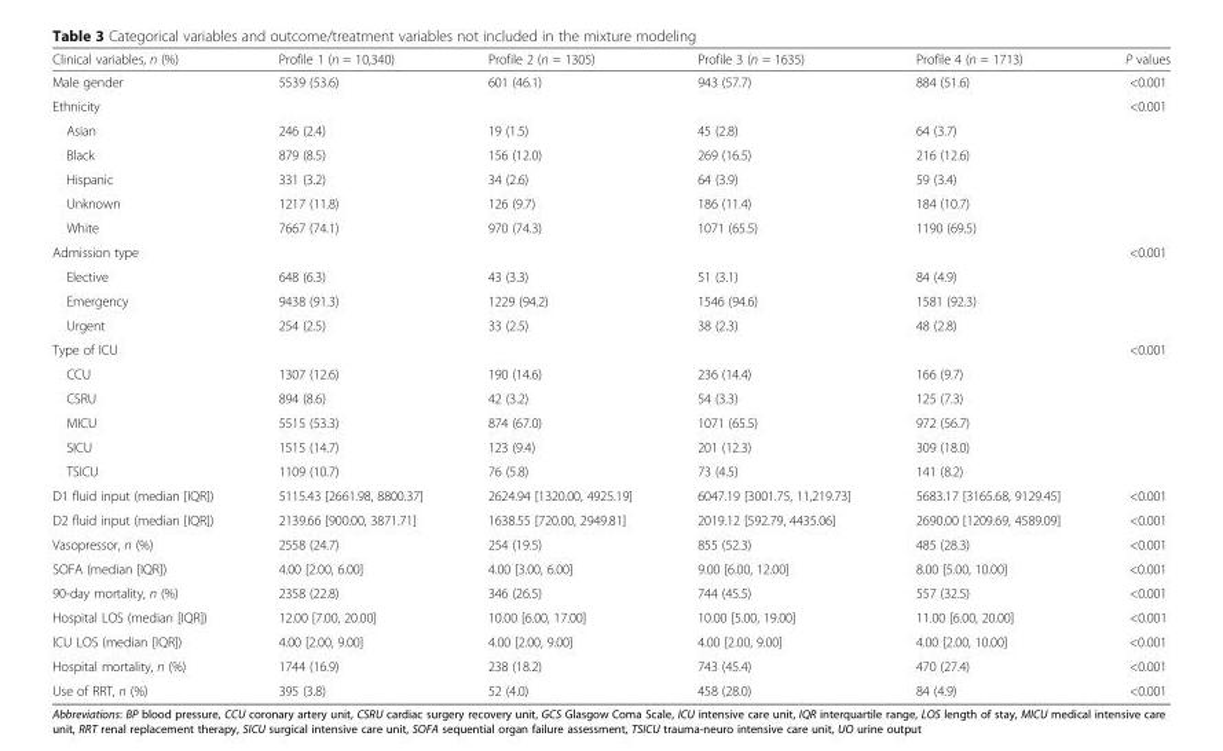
<table><thead><tr><td>Clinical variables, n (%)</td><td>Profile 1 (n = 10,340)</td><td>Profile 2 (n = 1305)</td><td>Profile 3 (n = 1635)</td><td>Profile 4 (n = 1713)</td><td>P values</td></tr></thead><tbody><tr><td>Male gender</td><td>5539 (53.6)</td><td>601 (46.1)</td><td>943 (57.7)</td><td>884 (51.6)</td><td>&lt;0.001</td></tr><tr><td>Ethnicity</td><td></td><td></td><td></td><td></td><td>&lt;0.001</td></tr><tr><td>Asian</td><td>246 (2.4)</td><td>19 (1.5)</td><td>45 (2.8)</td><td>64 (3.7)</td><td></td></tr><tr><td>Black</td><td>879 (8.5)</td><td>156 (12.0)</td><td>269 (16.5)</td><td>216 (12.6)</td><td></td></tr><tr><td>Hispanic</td><td>331 (3.2)</td><td>34 (2.6)</td><td>64 (3.9)</td><td>59 (3.4)</td><td></td></tr><tr><td>Unknown</td><td>1217 (11.8)</td><td>126 (9.7)</td><td>186 (11.4)</td><td>184 (10.7)</td><td></td></tr><tr><td>White</td><td>7667 (74.1)</td><td>970 (74.3)</td><td>1071 (65.5)</td><td>1190 (69.5)</td><td></td></tr><tr><td>Admission type</td><td></td><td></td><td></td><td></td><td>&lt;0.001</td></tr><tr><td>Elective</td><td>648 (6.3)</td><td>43 (3.3)</td><td>51 (3.1)</td><td>84 (4.9)</td><td></td></tr><tr><td>Emergency</td><td>9438 (91.3)</td><td>1229 (94.2)</td><td>1546 (94.6)</td><td>1581 (92.3)</td><td></td></tr><tr><td>Urgent</td><td>254 (2.5)</td><td>33 (2.5)</td><td>38 (2.3)</td><td>48 (2.8)</td><td></td></tr><tr><td>Type of ICU</td><td></td><td></td><td></td><td></td><td>&lt;0.001</td></tr><tr><td>CCU</td><td>1307 (12.6)</td><td>190 (14.6)</td><td>236 (14.4)</td><td>166 (9.7)</td><td></td></tr><tr><td>CSRU</td><td>894 (8.6)</td><td>42 (3.2)</td><td>54 (3.3)</td><td>125 (7.3)</td><td></td></tr><tr><td>MICU</td><td>5515 (53.3)</td><td>874 (67.0)</td><td>1071 (65.5)</td><td>972 (56.7)</td><td></td></tr><tr><td>SICU</td><td>1515 (14.7)</td><td>123 (9.4)</td><td>201 (12.3)</td><td>309 (18.0)</td><td></td></tr><tr><td>TSICU</td><td>1109 (10.7)</td><td>76 (5.8)</td><td>73 (4.5)</td><td>141 (8.2)</td><td></td></tr><tr><td>D1 fluid input (median [IQR])</td><td>5115.43 [2661.98, 8800.37]</td><td>2624.94 [1320.00, 4925.19]</td><td>6047.19 [3001.75, 11,219.73]</td><td>5683.17 [3165.68, 9129.45]</td><td>&lt;0.001</td></tr><tr><td>D2 fluid input (median [IQR])</td><td>2139.66 [900.00, 3871.71]</td><td>1638.55 [720.00, 2949.81]</td><td>2019.12 [592.79, 4435.06]</td><td>2690.00 [1209.69, 4589.09]</td><td>&lt;0.001</td></tr><tr><td>Vasopressor, n (%)</td><td>2558 (24.7)</td><td>254 (19.5)</td><td>855 (52.3)</td><td>485 (28.3)</td><td>&lt;0.001</td></tr><tr><td>SOFA (median [IQR])</td><td>4.00 [2.00, 6.00]</td><td>4.00 [3.00, 6.00]</td><td>9.00 [6.00, 12.00]</td><td>8.00 [5.00, 10.00]</td><td>&lt;0.001</td></tr><tr><td>90-day mortality, n (%)</td><td>2358 (22.8)</td><td>346 (26.5)</td><td>744 (45.5)</td><td>557 (32.5)</td><td>&lt;0.001</td></tr><tr><td>Hospital LOS (median [IQR])</td><td>12.00 [7.00, 20.00]</td><td>10.00 [6.00, 17.00]</td><td>10.00 [5.00, 19.00]</td><td>11.00 [6.00, 20.00]</td><td>&lt;0.001</td></tr><tr><td>ICU LOS (median [IQR])</td><td>4.00 [2.00, 9.00]</td><td>4.00 [2.00, 9.00]</td><td>4.00 [2.00, 9.00]</td><td>4.00 [2.00, 10.00]</td><td>&lt;0.001</td></tr><tr><td>Hospital mortality, n (%)</td><td>1744 (16.9)</td><td>238 (18.2)</td><td>743 (45.4)</td><td>470 (27.4)</td><td>&lt;0.001</td></tr><tr><td>Use of RRT, n (%)</td><td>395 (3.8)</td><td>52 (4.0)</td><td>458 (28.0)</td><td>84 (4.9)</td><td>&lt;0.001</td></tr></tbody></table>